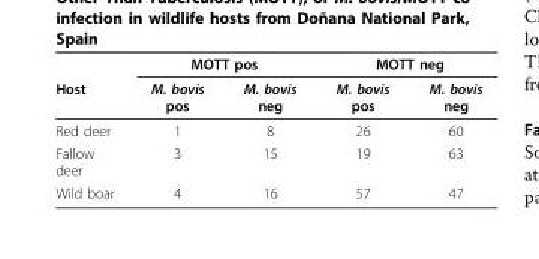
<table><thead><tr><td rowspan="2">Host</td><td colspan="2">MOTT pos</td><td colspan="2">MOTT neg</td></tr><tr><td>M. bovis pos</td><td>M. bovis neg</td><td>M. bovis pos</td><td>M. bovis neg</td></tr></thead><tbody><tr><td>Red deer</td><td>1</td><td>8</td><td>26</td><td>60</td></tr><tr><td>Fallow deer</td><td>3</td><td>15</td><td>19</td><td>63</td></tr><tr><td>Wild boar</td><td>4</td><td>16</td><td>57</td><td>47</td></tr></tbody></table>